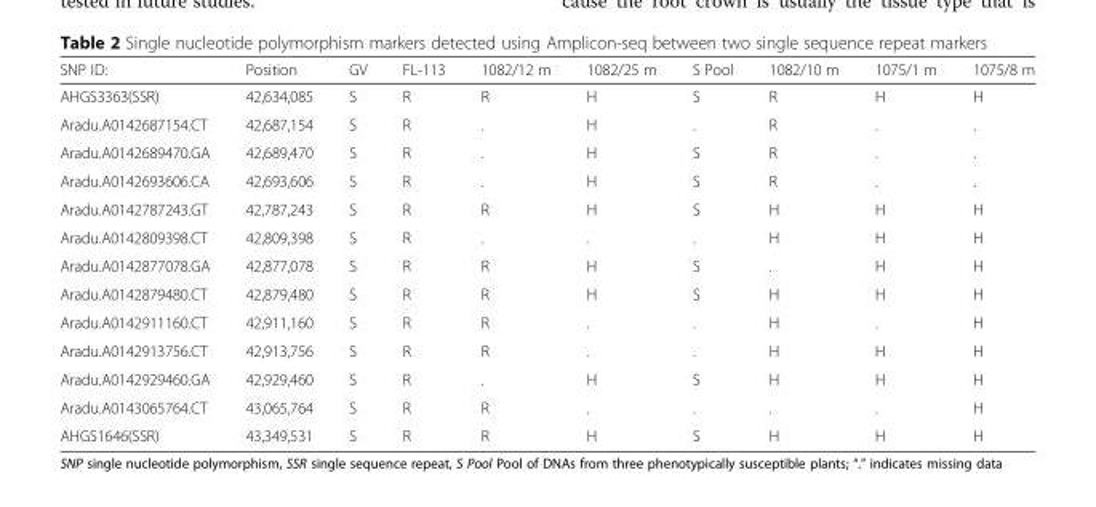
<table><thead><tr><td>SNP ID:</td><td>Position</td><td>GV</td><td>FL-113</td><td>1082/12 m</td><td>1082/25 m</td><td>S Pool</td><td>1082/10 m</td><td>1075/1 m</td><td>1075/8 m</td></tr></thead><tbody><tr><td>AHGS3363(SSR)</td><td>42,634,085</td><td>S</td><td>R</td><td>R</td><td>H</td><td>S</td><td>R</td><td>H</td><td>H</td></tr><tr><td>Aradu.A0142687154.CT</td><td>42,687,154</td><td>S</td><td>R</td><td>.</td><td>H</td><td>.</td><td>R</td><td>.</td><td>.</td></tr><tr><td>Aradu.A0142689470.GA</td><td>42,689,470</td><td>S</td><td>R</td><td>.</td><td>H</td><td>S</td><td>R</td><td>.</td><td>.</td></tr><tr><td>Aradu.A0142693606.CA</td><td>42,693,606</td><td>S</td><td>R</td><td>.</td><td>H</td><td>S</td><td>R</td><td>.</td><td>.</td></tr><tr><td>Aradu.A0142787243.GT</td><td>42,787,243</td><td>S</td><td>R</td><td>R</td><td>H</td><td>S</td><td>H</td><td>H</td><td>H</td></tr><tr><td>Aradu.A0142809398.CT</td><td>42,809,398</td><td>S</td><td>R</td><td>.</td><td>.</td><td>.</td><td>H</td><td>H</td><td>H</td></tr><tr><td>Aradu.A0142877078.GA</td><td>42,877,078</td><td>S</td><td>R</td><td>R</td><td>H</td><td>S</td><td>.</td><td>H</td><td>H</td></tr><tr><td>Aradu.A0142879480.CT</td><td>42,879,480</td><td>S</td><td>R</td><td>R</td><td>H</td><td>S</td><td>H</td><td>H</td><td>H</td></tr><tr><td>Aradu.A0142911160.CT</td><td>42,911,160</td><td>S</td><td>R</td><td>R</td><td>.</td><td>.</td><td>H</td><td>.</td><td>H</td></tr><tr><td>Aradu.A0142913756.CT</td><td>42,913,756</td><td>S</td><td>R</td><td>R</td><td>.</td><td>.</td><td>H</td><td>H</td><td>H</td></tr><tr><td>Aradu.A0142929460.GA</td><td>42,929,460</td><td>S</td><td>R</td><td>.</td><td>H</td><td>S</td><td>H</td><td>H</td><td>H</td></tr><tr><td>Aradu.A0143065764.CT</td><td>43,065,764</td><td>S</td><td>R</td><td>R</td><td>.</td><td>.</td><td>.</td><td>.</td><td>H</td></tr><tr><td>AHGS1646(SSR)</td><td>43,349,531</td><td>S</td><td>R</td><td>R</td><td>H</td><td>S</td><td>H</td><td>H</td><td>H</td></tr></tbody></table>